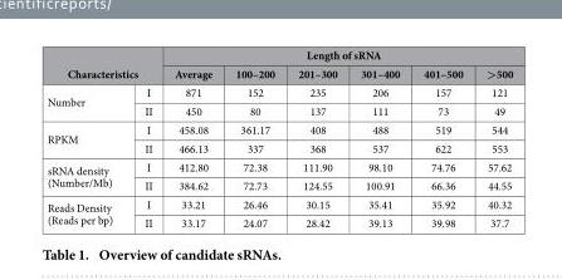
<table><thead><tr><td></td><td></td><td colspan="6">Length of sRNA</td></tr><tr><td colspan="2">Characteristics</td><td>Average</td><td>100–200</td><td>201–300</td><td>301–400</td><td>401–500</td><td>&gt;500</td></tr></thead><tbody><tr><td rowspan="2">Number</td><td>I</td><td>871</td><td>152</td><td>235</td><td>206</td><td>157</td><td>121</td></tr><tr><td>II</td><td>450</td><td>80</td><td>137</td><td>111</td><td>73</td><td>49</td></tr><tr><td rowspan="2">RPKM</td><td>I</td><td>458.08</td><td>361.17</td><td>408</td><td>488</td><td>519</td><td>544</td></tr><tr><td>II</td><td>466.13</td><td>337</td><td>368</td><td>537</td><td>622</td><td>553</td></tr><tr><td rowspan="2">sRNA density (Number/Mb)</td><td>I</td><td>412.80</td><td>72.38</td><td>111.90</td><td>98.10</td><td>74.76</td><td>57.62</td></tr><tr><td>II</td><td>384.62</td><td>72.73</td><td>124.55</td><td>100.91</td><td>66.36</td><td>44.55</td></tr><tr><td rowspan="2">Reads Density (Reads per bp)</td><td>I</td><td>33.21</td><td>26.46</td><td>30.15</td><td>35.41</td><td>35.92</td><td>40.32</td></tr><tr><td>II</td><td>33.17</td><td>24.07</td><td>28.42</td><td>39.13</td><td>39.98</td><td>37.7</td></tr></tbody></table>